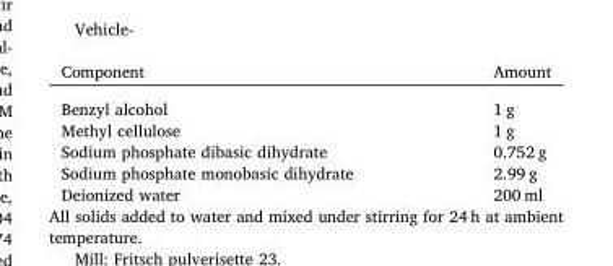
<table><thead><tr><td>Component</td><td>Amount</td></tr></thead><tbody><tr><td>Benzyl alcohol</td><td>1 g</td></tr><tr><td>Methyl cellulose</td><td>1 g</td></tr><tr><td>Sodium phosphate dibasic dihydrate</td><td>0.752 g</td></tr><tr><td>Sodium phosphate monobasic dihydrate</td><td>2.99 g</td></tr><tr><td>Deionized water</td><td>200 ml</td></tr></tbody></table>